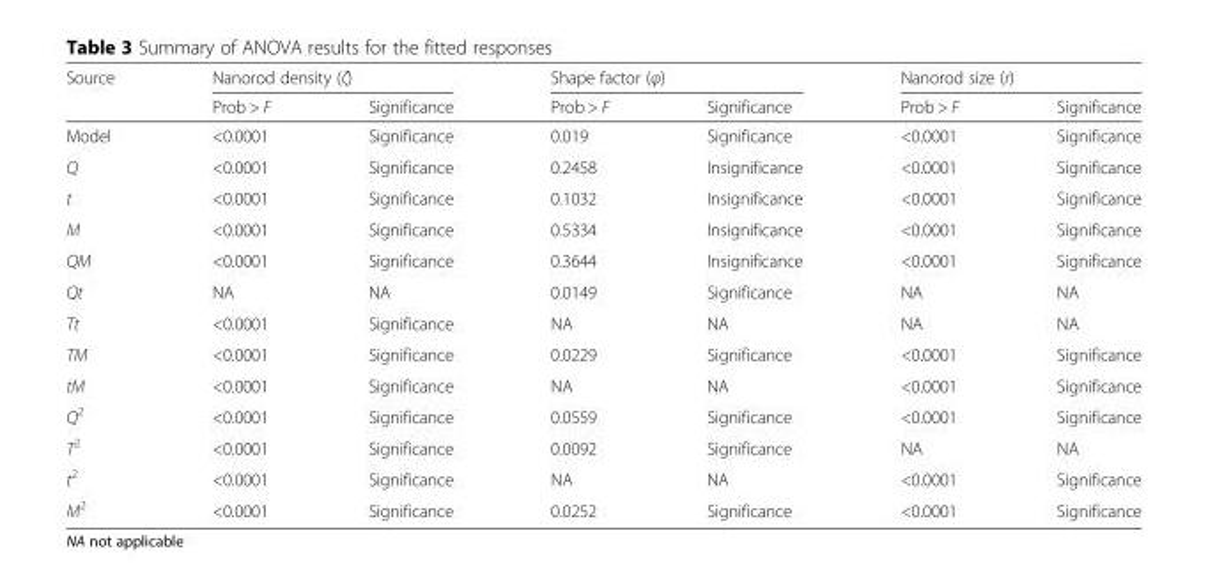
<table><thead><tr><td rowspan="2">Source</td><td colspan="2">Nanorod density (ζ)</td><td colspan="2">Shape factor (φ)</td><td colspan="2">Nanorod size (r)</td></tr><tr><td>Prob &gt; F</td><td>Significance</td><td>Prob &gt; F</td><td>Significance</td><td>Prob &gt; F</td><td>Significance</td></tr></thead><tbody><tr><td>Model</td><td>&lt;0.0001</td><td>Significance</td><td>0.019</td><td>Significance</td><td>&lt;0.0001</td><td>Significance</td></tr><tr><td>Q</td><td>&lt;0.0001</td><td>Significance</td><td>0.2458</td><td>Insignificance</td><td>&lt;0.0001</td><td>Significance</td></tr><tr><td>t</td><td>&lt;0.0001</td><td>Significance</td><td>0.1032</td><td>Insignificance</td><td>&lt;0.0001</td><td>Significance</td></tr><tr><td>M</td><td>&lt;0.0001</td><td>Significance</td><td>0.5334</td><td>Insignificance</td><td>&lt;0.0001</td><td>Significance</td></tr><tr><td>QM</td><td>&lt;0.0001</td><td>Significance</td><td>0.3644</td><td>Insignificance</td><td>&lt;0.0001</td><td>Significance</td></tr><tr><td>Qt</td><td>NA</td><td>NA</td><td>0.0149</td><td>Significance</td><td>NA</td><td>NA</td></tr><tr><td>Tt</td><td>&lt;0.0001</td><td>Significance</td><td>NA</td><td>NA</td><td>NA</td><td>NA</td></tr><tr><td>TM</td><td>&lt;0.0001</td><td>Significance</td><td>0.0229</td><td>Significance</td><td>&lt;0.0001</td><td>Significance</td></tr><tr><td>tM</td><td>&lt;0.0001</td><td>Significance</td><td>NA</td><td>NA</td><td>&lt;0.0001</td><td>Significance</td></tr><tr><td>Q<sup>2</sup></td><td>&lt;0.0001</td><td>Significance</td><td>0.0559</td><td>Significance</td><td>&lt;0.0001</td><td>Significance</td></tr><tr><td>T<sup>2</sup></td><td>&lt;0.0001</td><td>Significance</td><td>0.0092</td><td>Significance</td><td>NA</td><td>NA</td></tr><tr><td>t<sup>2</sup></td><td>&lt;0.0001</td><td>Significance</td><td>NA</td><td>NA</td><td>&lt;0.0001</td><td>Significance</td></tr><tr><td>M<sup>2</sup></td><td>&lt;0.0001</td><td>Significance</td><td>0.0252</td><td>Significance</td><td>&lt;0.0001</td><td>Significance</td></tr></tbody></table>